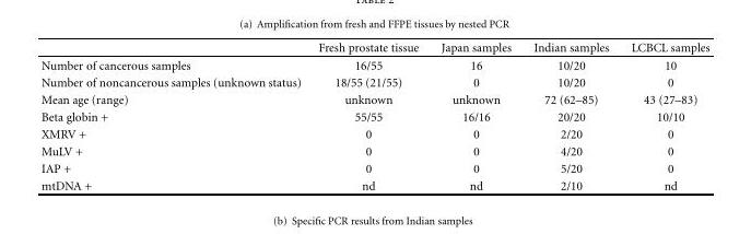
<table><thead><tr><td></td><td>Fresh prostate tissue</td><td>Japan samples</td><td>Indian samples</td><td>LCBCL samples</td></tr></thead><tbody><tr><td>Number of cancerous samples</td><td>16/55</td><td>16</td><td>10/20</td><td>10</td></tr><tr><td>Number of noncancerous samples (unknown status)</td><td>18/55 (21/55)</td><td>0</td><td>10/20</td><td>0</td></tr><tr><td>Mean age (range)</td><td>unknown</td><td>unknown</td><td>72 (62–85)</td><td>43 (27–83)</td></tr><tr><td>Beta globin +</td><td>55/55</td><td>16/16</td><td>20/20</td><td>10/10</td></tr><tr><td>XMRV +</td><td>0</td><td>0</td><td>2/20</td><td>0</td></tr><tr><td>MuLV +</td><td>0</td><td>0</td><td>4/20</td><td>0</td></tr><tr><td>IAP +</td><td>0</td><td>0</td><td>5/20</td><td>0</td></tr><tr><td>mtDNA +</td><td>nd</td><td>nd</td><td>2/10</td><td>nd</td></tr></tbody></table>